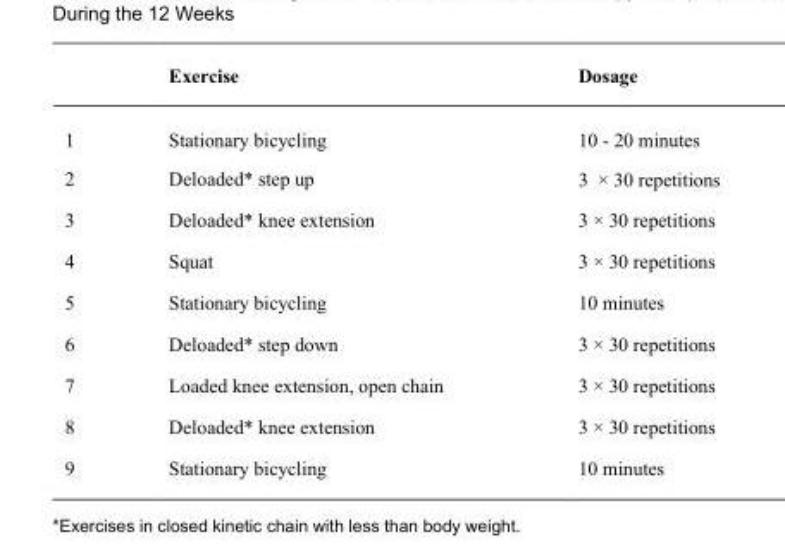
<table><thead><tr><td></td><td>Exercise</td><td>Dosage</td></tr></thead><tbody><tr><td>1</td><td>Stationary bicycling</td><td>10 - 20 minutes</td></tr><tr><td>2</td><td>Deloaded* step up</td><td>3 × 30 repetitions</td></tr><tr><td>3</td><td>Deloaded* knee extension</td><td>3 × 30 repetitions</td></tr><tr><td>4</td><td>Squat</td><td>3 × 30 repetitions</td></tr><tr><td>5</td><td>Stationary bicycling</td><td>10 minutes</td></tr><tr><td>6</td><td>Deloaded* step down</td><td>3 × 30 repetitions</td></tr><tr><td>7</td><td>Loaded knee extension, open chain</td><td>3 × 30 repetitions</td></tr><tr><td>8</td><td>Deloaded* knee extension</td><td>3 × 30 repetitions</td></tr><tr><td>9</td><td>Stationary bicycling</td><td>10 minutes</td></tr></tbody></table>